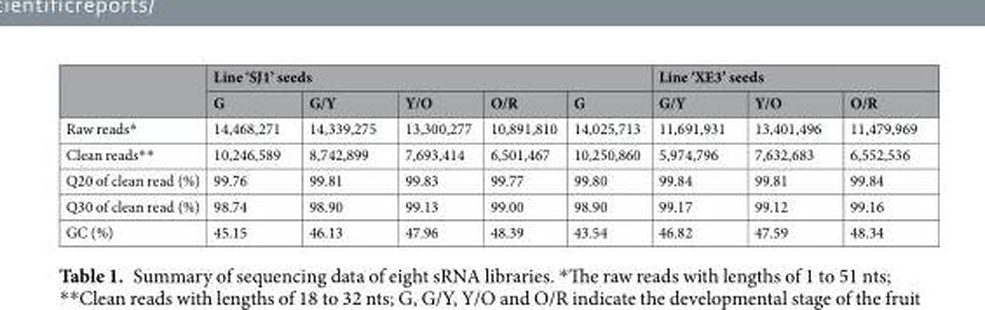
<table><thead><tr><td rowspan="2"></td><td colspan="5">Line ‘SJ1’ seeds</td><td colspan="3">Line ‘XE3’ seeds</td></tr><tr><td>G</td><td>G/Y</td><td>Y/O</td><td>O/R</td><td>G</td><td>G/Y</td><td>Y/O</td><td>O/R</td></tr></thead><tbody><tr><td>Raw reads*</td><td>14,468,271</td><td>14,339,275</td><td>13,300,277</td><td>10,891,810</td><td>14,025,713</td><td>11,691,931</td><td>13,401,496</td><td>11,479,969</td></tr><tr><td>Clean reads**</td><td>10,246,589</td><td>8,742,899</td><td>7,693,414</td><td>6,501,467</td><td>10,250,860</td><td>5,974,796</td><td>7,632,683</td><td>6,552,536</td></tr><tr><td>Q20 of clean read (%)</td><td>99.76</td><td>99.81</td><td>99.83</td><td>99.77</td><td>99.80</td><td>99.84</td><td>99.81</td><td>99.84</td></tr><tr><td>Q30 of clean read (%)</td><td>98.74</td><td>98.90</td><td>99.13</td><td>99.00</td><td>98.90</td><td>99.17</td><td>99.12</td><td>99.16</td></tr><tr><td>GC (%)</td><td>45.15</td><td>46.13</td><td>47.96</td><td>48.39</td><td>43.54</td><td>46.82</td><td>47.59</td><td>48.34</td></tr></tbody></table>